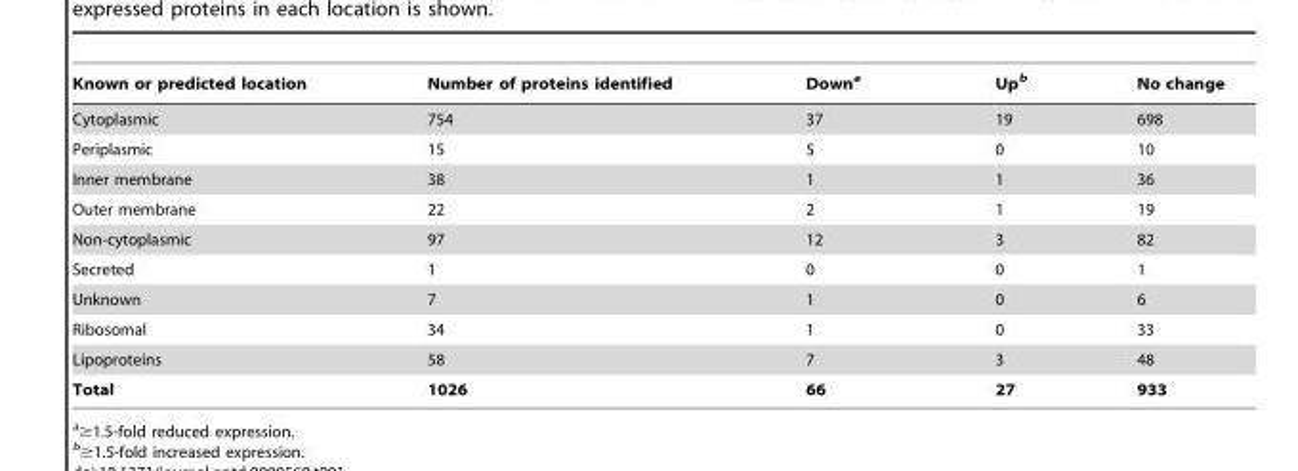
<table><thead><tr><td>Known or predicted location</td><td>Number of proteins identified</td><td>Down<sup>a</sup></td><td>Up<sup>b</sup></td><td>No change</td></tr></thead><tbody><tr><td>Cytoplasmic</td><td>754</td><td>37</td><td>19</td><td>698</td></tr><tr><td>Periplasmic</td><td>15</td><td>5</td><td>0</td><td>10</td></tr><tr><td>Inner membrane</td><td>38</td><td>1</td><td>1</td><td>36</td></tr><tr><td>Outer membrane</td><td>22</td><td>2</td><td>1</td><td>19</td></tr><tr><td>Non-cytoplasmic</td><td>97</td><td>12</td><td>3</td><td>82</td></tr><tr><td>Secreted</td><td>1</td><td>0</td><td>0</td><td>1</td></tr><tr><td>Unknown</td><td>7</td><td>1</td><td>0</td><td>6</td></tr><tr><td>Ribosomal</td><td>34</td><td>1</td><td>0</td><td>33</td></tr><tr><td>Lipoproteins</td><td>58</td><td>7</td><td>3</td><td>48</td></tr><tr><td>Total</td><td>1026</td><td>66</td><td>27</td><td>933</td></tr></tbody></table>